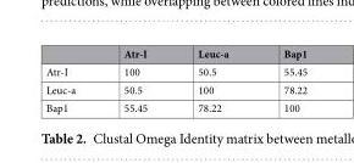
<table><thead><tr><td></td><td>Atr-I</td><td>Leuc-a</td><td>Bap1</td></tr></thead><tbody><tr><td>Atr-I</td><td>100</td><td>50.5</td><td>55.45</td></tr><tr><td>Leuc-a</td><td>50.5</td><td>100</td><td>78.22</td></tr><tr><td>Bap1</td><td>55.45</td><td>78.22</td><td>100</td></tr></tbody></table>